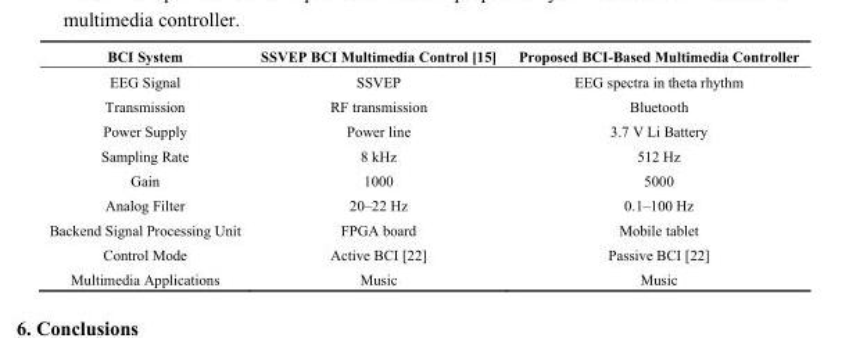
<table><thead><tr><td>BCI System</td><td>SSVEP BCI Multimedia Control [15]</td><td>Proposed BCI-Based Multimedia Controller</td></tr></thead><tbody><tr><td>EEG Signal</td><td>SSVEP</td><td>EEG spectra in theta rhythm</td></tr><tr><td>Transmission</td><td>RF transmission</td><td>Bluetooth</td></tr><tr><td>Power Supply</td><td>Power line</td><td>3.7 V Li Battery</td></tr><tr><td>Sampling Rate</td><td>8 kHz</td><td>512 Hz</td></tr><tr><td>Gain</td><td>1000</td><td>5000</td></tr><tr><td>Analog Filter</td><td>20–22 Hz</td><td>0.1–100 Hz</td></tr><tr><td>Backend Signal Processing Unit</td><td>FPGA board</td><td>Mobile tablet</td></tr><tr><td>Control Mode</td><td>Active BCI [22]</td><td>Passive BCI [22]</td></tr><tr><td>Multimedia Applications</td><td>Music</td><td>Music</td></tr></tbody></table>